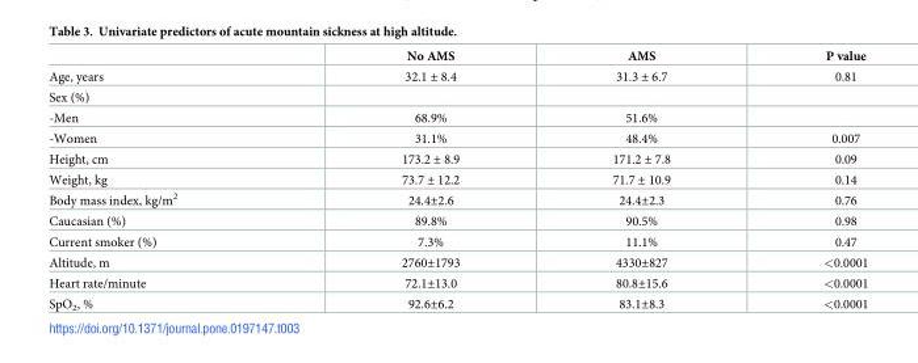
<table><thead><tr><td></td><td>No AMS</td><td>AMS</td><td>P value</td></tr></thead><tbody><tr><td>Age, years</td><td>32.1 ± 8.4</td><td>31.3 ± 6.7</td><td>0.81</td></tr><tr><td colspan="4">Sex (%)</td></tr><tr><td>-Men</td><td>68.9%</td><td>51.6%</td><td></td></tr><tr><td>-Women</td><td>31.1%</td><td>48.4%</td><td>0.007</td></tr><tr><td>Height, cm</td><td>173.2 ± 8.9</td><td>171.2 ± 7.8</td><td>0.09</td></tr><tr><td>Weight, kg</td><td>73.7 ± 12.2</td><td>71.7 ± 10.9</td><td>0.14</td></tr><tr><td>Body mass index, kg/m<sup>2</sup></td><td>24.4±2.6</td><td>24.4±2.3</td><td>0.76</td></tr><tr><td>Caucasian (%)</td><td>89.8%</td><td>90.5%</td><td>0.98</td></tr><tr><td>Current smoker (%)</td><td>7.3%</td><td>11.1%</td><td>0.47</td></tr><tr><td>Altitude, m</td><td>2760±1793</td><td>4330±827</td><td>&lt;0.0001</td></tr><tr><td>Heart rate/minute</td><td>72.1±13.0</td><td>80.8±15.6</td><td>&lt;0.0001</td></tr><tr><td>SpO<sub>2</sub>, %</td><td>92.6±6.2</td><td>83.1±8.3</td><td>&lt;0.0001</td></tr></tbody></table>